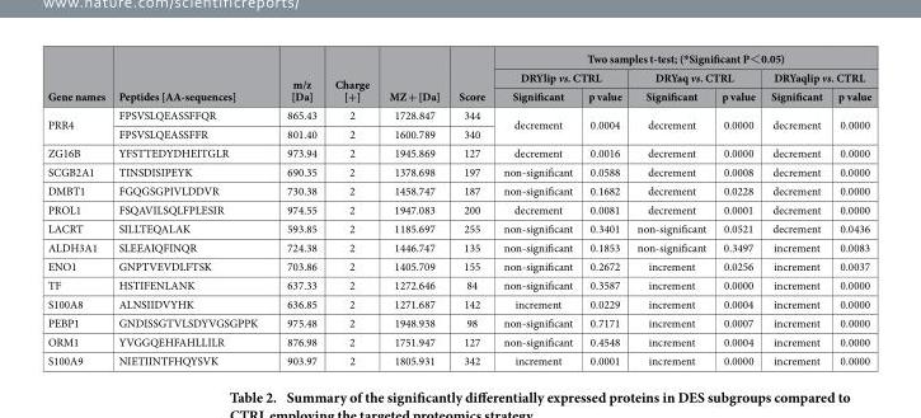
<table><thead><tr><td rowspan="3">Gene names</td><td rowspan="3">Peptides [AA-sequences]</td><td rowspan="3">m/z [Da]</td><td rowspan="3">Charge [+]</td><td rowspan="3">MZ + [Da]</td><td rowspan="3">Score</td><td colspan="6">Two samples t-test; (*Significant P&lt;0.05)</td></tr><tr><td colspan="2">DRYlip vs. CTRL</td><td colspan="2">DRYaq vs. CTRL</td><td colspan="2">DRYaqlip vs. CTRL</td></tr><tr><td>Significant</td><td>p value</td><td>Significant</td><td>p value</td><td>Significant</td><td>p value</td></tr></thead><tbody><tr><td rowspan="2">PRR4</td><td>FPSVSLQEASSFFQR</td><td>865.43</td><td>2</td><td>1728.847</td><td>344</td><td rowspan="2">decrement</td><td rowspan="2">0.0004</td><td rowspan="2">decrement</td><td rowspan="2">0.0000</td><td rowspan="2">decrement</td><td rowspan="2">0.0000</td></tr><tr><td>FPSVSLQEASSFFR</td><td>801.40</td><td>2</td><td>1600.789</td><td>340</td></tr><tr><td>ZG16B</td><td>YFSTTEDYDHEITGLR</td><td>973.94</td><td>2</td><td>1945.869</td><td>127</td><td>decrement</td><td>0.0016</td><td>decrement</td><td>0.0000</td><td>decrement</td><td>0.0000</td></tr><tr><td>SCGB2A1</td><td>TINSDISIPEYK</td><td>690.35</td><td>2</td><td>1378.698</td><td>197</td><td>non-significant</td><td>0.0588</td><td>decrement</td><td>0.0008</td><td>decrement</td><td>0.0000</td></tr><tr><td>DMBT1</td><td>FGQGSGPIVLDDVR</td><td>730.38</td><td>2</td><td>1458.747</td><td>187</td><td>non-significant</td><td>0.1682</td><td>decrement</td><td>0.0228</td><td>decrement</td><td>0.0000</td></tr><tr><td>PROL1</td><td>FSQAVILSQLFPLESIR</td><td>974.55</td><td>2</td><td>1947.083</td><td>200</td><td>decrement</td><td>0.0081</td><td>decrement</td><td>0.0001</td><td>decrement</td><td>0.0000</td></tr><tr><td>LACRT</td><td>SILLTEQALAK</td><td>593.85</td><td>2</td><td>1185.697</td><td>255</td><td>non-significant</td><td>0.3401</td><td>non-significant</td><td>0.0521</td><td>decrement</td><td>0.0436</td></tr><tr><td>ALDH3A1</td><td>SLEEAIQFINQR</td><td>724.38</td><td>2</td><td>1446.747</td><td>135</td><td>non-significant</td><td>0.1853</td><td>non-significant</td><td>0.3497</td><td>increment</td><td>0.0083</td></tr><tr><td>ENO1</td><td>GNPTVEVDLFTSK</td><td>703.86</td><td>2</td><td>1405.709</td><td>155</td><td>non-significant</td><td>0.2672</td><td>increment</td><td>0.0256</td><td>increment</td><td>0.0037</td></tr><tr><td>TF</td><td>HSTIFENLANK</td><td>637.33</td><td>2</td><td>1272.646</td><td>84</td><td>non-significant</td><td>0.3587</td><td>increment</td><td>0.0000</td><td>increment</td><td>0.0000</td></tr><tr><td>S100A8</td><td>ALNSIIDVYHK</td><td>636.85</td><td>2</td><td>1271.687</td><td>142</td><td>increment</td><td>0.0229</td><td>increment</td><td>0.0004</td><td>increment</td><td>0.0000</td></tr><tr><td>PEBP1</td><td>GNDISSGTVLSDYVGSGPPK</td><td>975.48</td><td>2</td><td>1948.938</td><td>98</td><td>non-significant</td><td>0.7171</td><td>increment</td><td>0.0007</td><td>increment</td><td>0.0000</td></tr><tr><td>ORM1</td><td>YVGGQEHFAHLLILR</td><td>876.98</td><td>2</td><td>1751.947</td><td>127</td><td>non-significant</td><td>0.4548</td><td>increment</td><td>0.0004</td><td>increment</td><td>0.0000</td></tr><tr><td>S100A9</td><td>NIETIINTFHQYSVK</td><td>903.97</td><td>2</td><td>1805.931</td><td>342</td><td>increment</td><td>0.0001</td><td>increment</td><td>0.0000</td><td>increment</td><td>0.0000</td></tr></tbody></table>